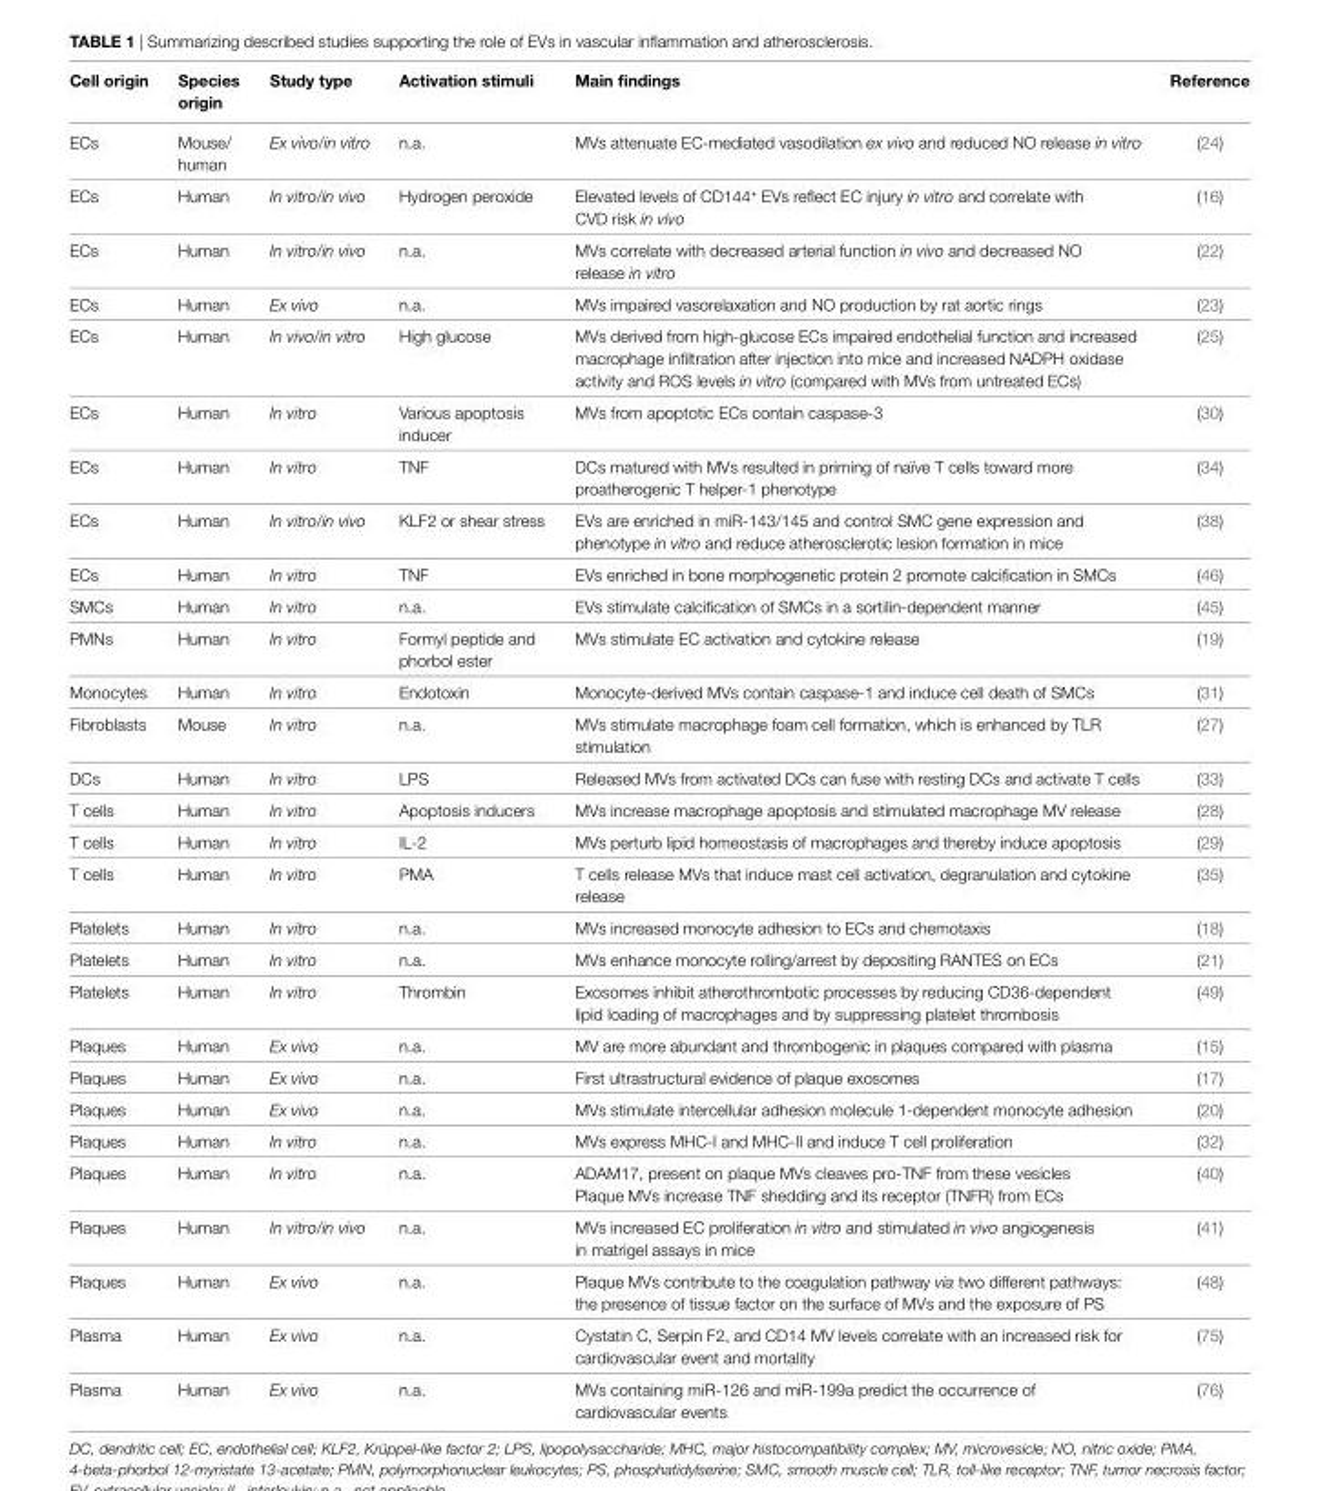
<table><thead><tr><td>Cell origin</td><td>Species origin</td><td>Study type</td><td>Activation stimuli</td><td>Main findings</td><td>Reference</td></tr></thead><tbody><tr><td>ECs</td><td>Mouse/ human</td><td>Ex vivo/in vitro</td><td>n.a.</td><td>MVs attenuate EC-mediated vasodilation ex vivo and reduced NO release in vitro</td><td>(24)</td></tr><tr><td>ECs</td><td>Human</td><td>In vitro/in vivo</td><td>Hydrogen peroxide</td><td>Elevated levels of CD144<sup>+</sup> EVs reflect EC injury in vitro and correlate with CVD risk in vivo</td><td>(16)</td></tr><tr><td>ECs</td><td>Human</td><td>In vitro/in vivo</td><td>n.a.</td><td>MVs correlate with decreased arterial function in vivo and decreased NO release in vitro</td><td>(22)</td></tr><tr><td>ECs</td><td>Human</td><td>Ex vivo</td><td>n.a.</td><td>MVs impaired vasorelaxation and NO production by rat aortic rings</td><td>(23)</td></tr><tr><td>ECs</td><td>Human</td><td>In vivo/in vitro</td><td>High glucose</td><td>MVs derived from high-glucose ECs impaired endothelial function and increased macrophage infiltration after injection into mice and increased NADPH oxidase activity and ROS levels in vitro (compared with MVs from untreated ECs)</td><td>(25)</td></tr><tr><td>ECs</td><td>Human</td><td>In vitro</td><td>Various apoptosis inducer</td><td>MVs from apoptotic ECs contain caspase-3</td><td>(30)</td></tr><tr><td>ECs</td><td>Human</td><td>In vitro</td><td>TNF</td><td>DCs matured with MVs resulted in priming of naïve T cells toward more proatherogenic T helper-1 phenotype</td><td>(34)</td></tr><tr><td>ECs</td><td>Human</td><td>In vitro/in vivo</td><td>KLF2 or shear stress</td><td>EVs are enriched in miR-143/145 and control SMC gene expression and phenotype in vitro and reduce atherosclerotic lesion formation in mice</td><td>(38)</td></tr><tr><td>ECs</td><td>Human</td><td>In vitro</td><td>TNF</td><td>EVs enriched in bone morphogenetic protein 2 promote calcification in SMCs</td><td>(46)</td></tr><tr><td>SMCs</td><td>Human</td><td>In vitro</td><td>n.a.</td><td>EVs stimulate calcification of SMCs in a sortilin-dependent manner</td><td>(45)</td></tr><tr><td>PMNs</td><td>Human</td><td>In vitro</td><td>Formyl peptide and phorbol ester</td><td>MVs stimulate EC activation and cytokine release</td><td>(19)</td></tr><tr><td>Monocytes</td><td>Human</td><td>In vitro</td><td>Endotoxin</td><td>Monocyte-derived MVs contain caspase-1 and induce cell death of SMCs</td><td>(31)</td></tr><tr><td>Fibroblasts</td><td>Mouse</td><td>In vitro</td><td>n.a.</td><td>MVs stimulate macrophage foam cell formation, which is enhanced by TLR stimulation</td><td>(27)</td></tr><tr><td>DCs</td><td>Human</td><td>In vitro</td><td>LPS</td><td>Released MVs from activated DCs can fuse with resting DCs and activate T cells</td><td>(33)</td></tr><tr><td>T cells</td><td>Human</td><td>In vitro</td><td>Apoptosis inducers</td><td>MVs increase macrophage apoptosis and stimulated macrophage MV release</td><td>(28)</td></tr><tr><td>T cells</td><td>Human</td><td>In vitro</td><td>IL-2</td><td>MVs perturb lipid homeostasis of macrophages and thereby induce apoptosis</td><td>(29)</td></tr><tr><td>T cells</td><td>Human</td><td>In vitro</td><td>PMA</td><td>T cells release MVs that induce mast cell activation, degranulation and cytokine release</td><td>(35)</td></tr><tr><td>Platelets</td><td>Human</td><td>In vitro</td><td>n.a.</td><td>MVs increased monocyte adhesion to ECs and chemotaxis</td><td>(18)</td></tr><tr><td>Platelets</td><td>Human</td><td>In vitro</td><td>n.a.</td><td>MVs enhance monocyte rolling/arrest by depositing RANTES on ECs</td><td>(21)</td></tr><tr><td>Platelets</td><td>Human</td><td>In vitro</td><td>Thrombin</td><td>Exosomes inhibit atherothrombotic processes by reducing CD36-dependent lipid loading of macrophages and by suppressing platelet thrombosis</td><td>(49)</td></tr><tr><td>Plaques</td><td>Human</td><td>Ex vivo</td><td>n.a.</td><td>MV are more abundant and thrombogenic in plaques compared with plasma</td><td>(15)</td></tr><tr><td>Plaques</td><td>Human</td><td>Ex vivo</td><td>n.a.</td><td>First ultrastructural evidence of plaque exosomes</td><td>(17)</td></tr><tr><td>Plaques</td><td>Human</td><td>Ex vivo</td><td>n.a.</td><td>MVs stimulate intercellular adhesion molecule 1-dependent monocyte adhesion</td><td>(20)</td></tr><tr><td>Plaques</td><td>Human</td><td>In vitro</td><td>n.a.</td><td>MVs express MHC-I and MHC-II and induce T cell proliferation</td><td>(32)</td></tr><tr><td>Plaques</td><td>Human</td><td>In vitro</td><td>n.a.</td><td>ADAM17, present on plaque MVs cleaves pro-TNF from these vesicles Plaque MVs increase TNF shedding and its receptor (TNFR) from ECs</td><td>(40)</td></tr><tr><td>Plaques</td><td>Human</td><td>In vitro/in vivo</td><td>n.a.</td><td>MVs increased EC proliferation in vitro and stimulated in vivo angiogenesis in matrigel assays in mice</td><td>(41)</td></tr><tr><td>Plaques</td><td>Human</td><td>Ex vivo</td><td>n.a.</td><td>Plaque MVs contribute to the coagulation pathway via two different pathways: the presence of tissue factor on the surface of MVs and the exposure of PS</td><td>(48)</td></tr><tr><td>Plasma</td><td>Human</td><td>Ex vivo</td><td>n.a.</td><td>Cystatin C, Serpin F2, and CD14 MV levels correlate with an increased risk for cardiovascular event and mortality</td><td>(75)</td></tr><tr><td>Plasma</td><td>Human</td><td>Ex vivo</td><td>n.a.</td><td>MVs containing miR-126 and miR-199a predict the occurrence of cardiovascular events</td><td>(76)</td></tr></tbody></table>